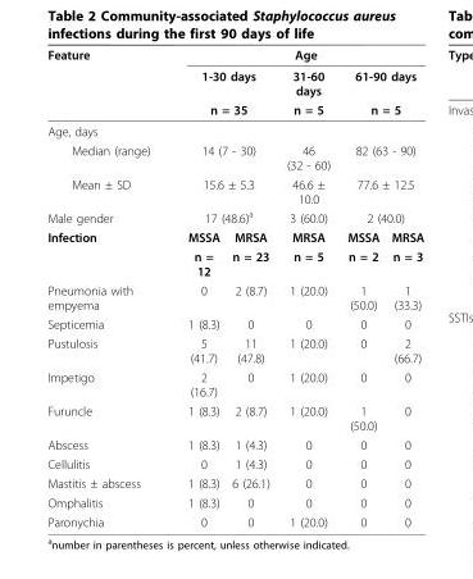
<table><thead><tr><td rowspan="4">Feature Age, days</td><td colspan="5">Age</td></tr><tr><td rowspan="2" colspan="2">1-30 days n = 35</td><td rowspan="3">31-60 days n = 5</td><td rowspan="2" colspan="2">61-90 days n = 5</td></tr><tr></tr><tr><td></td><td></td><td></td><td></td></tr></thead><tbody><tr><td>Median (range)</td><td colspan="2">14 (7 - 30)</td><td>46 (32 - 60)</td><td colspan="2">82 (63 - 90)</td></tr><tr><td>Mean ± SD</td><td colspan="2">15.6 ± 5.3</td><td>46.6 ± 10.0</td><td colspan="2">77.6 ± 12.5</td></tr><tr><td>Male gender</td><td colspan="2">17 (48.6)<sup>a</sup></td><td>3 (60.0)</td><td colspan="2">2 (40.0)</td></tr><tr><td rowspan="2">Infection</td><td>MSSA</td><td>MRSA</td><td>MRSA</td><td>MSSA</td><td>MRSA</td></tr><tr><td>n = 12</td><td>n = 23</td><td>n = 5</td><td>n = 2</td><td>n = 3</td></tr><tr><td>Pneumonia with empyema</td><td>0</td><td>2 (8.7)</td><td>1 (20.0)</td><td>1 (50.0)</td><td>1 (33.3)</td></tr><tr><td>Septicemia</td><td>1 (8.3)</td><td>0</td><td>0</td><td>0</td><td>0</td></tr><tr><td>Pustulosis</td><td>5 (41.7)</td><td>11 (47.8)</td><td>1 (20.0)</td><td>0</td><td>2 (66.7)</td></tr><tr><td>Impetigo</td><td>2 (16.7)</td><td>0</td><td>1 (20.0)</td><td>0</td><td>0</td></tr><tr><td>Furuncle</td><td>1 (8.3)</td><td>2 (8.7)</td><td>1 (20.0)</td><td>1 (50.0)</td><td>0</td></tr><tr><td>Abscess</td><td>1 (8.3)</td><td>1 (4.3)</td><td>0</td><td>0</td><td>0</td></tr><tr><td>Cellulitis</td><td>0</td><td>1 (4.3)</td><td>0</td><td>0</td><td>0</td></tr><tr><td>Mastitis ± abscess</td><td>1 (8.3)</td><td>6 (26.1)</td><td>0</td><td>0</td><td>0</td></tr><tr><td>Omphalitis</td><td>1 (8.3)</td><td>0</td><td>0</td><td>0</td><td>0</td></tr><tr><td>Paronychia</td><td>0</td><td>0</td><td>1 (20.0)</td><td>0</td><td>0</td></tr></tbody></table>